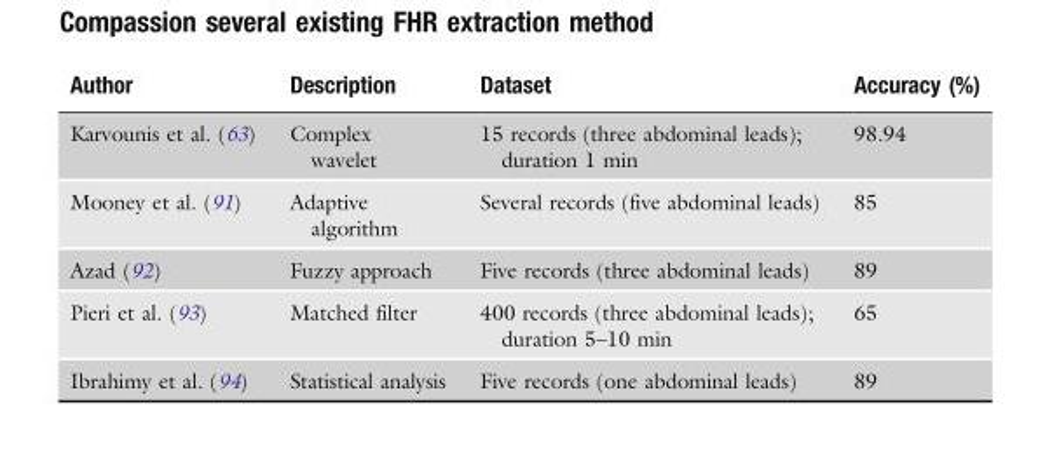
<table><thead><tr><td>Author</td><td>Description</td><td>Dataset</td><td>Accuracy (%)</td></tr></thead><tbody><tr><td>Karvounis et al. (63)</td><td>Complex wavelet</td><td>15 records (three abdominal leads); duration 1 min</td><td>98.94</td></tr><tr><td>Mooney et al. (91)</td><td>Adaptive algorithm</td><td>Several records (five abdominal leads)</td><td>85</td></tr><tr><td>Azad (92)</td><td>Fuzzy approach</td><td>Five records (three abdominal leads)</td><td>89</td></tr><tr><td>Pieri et al. (93)</td><td>Matched filter</td><td>400 records (three abdominal leads); duration 5–10 min</td><td>65</td></tr><tr><td>Ibrahimy et al. (94)</td><td>Statistical analysis</td><td>Five records (one abdominal leads)</td><td>89</td></tr></tbody></table>